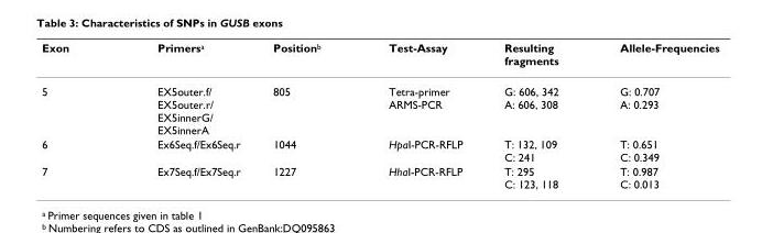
<table><thead><tr><td>Exon</td><td>Primersa</td><td>Positionb</td><td>Test-Assay</td><td>Resulting fragments</td><td>Allele-Frequencies</td></tr></thead><tbody><tr><td>5</td><td>EX5outer.f/ EX5outer.r/ EX5innerG/ EX5innerA</td><td>805</td><td>Tetra-primer ARMS-PCR</td><td>G: 606, 342 A: 606, 308</td><td>G: 0.707 A: 0.293</td></tr><tr><td>6</td><td>Ex6Seq.f/Ex6Seq.r</td><td>1044</td><td>HpaI-PCR-RFLP</td><td>T: 132, 109 C: 241</td><td>T: 0.651 C: 0.349</td></tr><tr><td>7</td><td>Ex7Seq.f/Ex7Seq.r</td><td>1227</td><td>HhaI-PCR-RFLP</td><td>T: 295 C: 123, 118</td><td>T: 0.987 C: 0.013</td></tr></tbody></table>